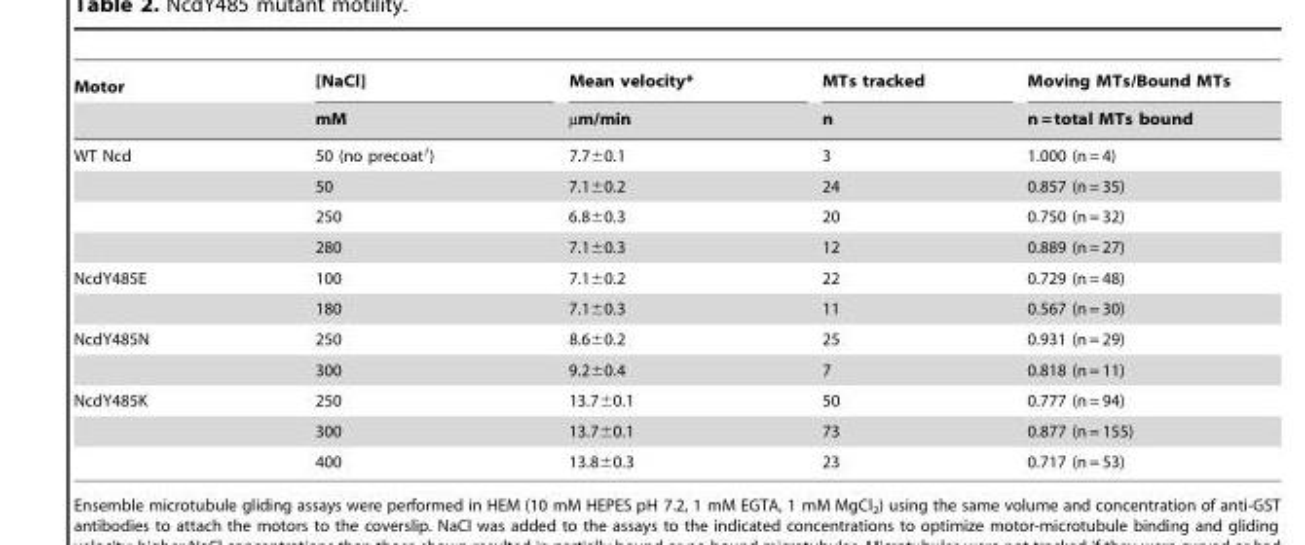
<table><thead><tr><td rowspan="2">Motor</td><td rowspan="2">[NaCl] mM</td><td rowspan="2">Mean velocity* µm/min</td><td rowspan="2">MTs tracked n</td><td rowspan="2">Moving MTs/Bound MTs n = total MTs bound</td></tr><tr></tr></thead><tbody><tr><td rowspan="4">WT Ncd</td><td>50 (no precoate)</td><td>7.7±0.1</td><td>3</td><td>1.000 (n = 4)</td></tr><tr><td>50</td><td>7.1±0.2</td><td>24</td><td>0.857 (n = 35)</td></tr><tr><td>250</td><td>6.8±0.3</td><td>20</td><td>0.750 (n = 32)</td></tr><tr><td>280</td><td>7.1±0.3</td><td>12</td><td>0.889 (n = 27)</td></tr><tr><td rowspan="2">NcdY485E</td><td>100</td><td>7.1±0.2</td><td>22</td><td>0.729 (n = 48)</td></tr><tr><td>180</td><td>7.1±0.3</td><td>11</td><td>0.567 (n = 30)</td></tr><tr><td rowspan="2">NcdY485N</td><td>250</td><td>8.6±0.2</td><td>25</td><td>0.931 (n = 29)</td></tr><tr><td>300</td><td>9.2±0.4</td><td>7</td><td>0.818 (n = 11)</td></tr><tr><td rowspan="3">NcdY485K</td><td>250</td><td>13.7±0.1</td><td>50</td><td>0.777 (n = 94)</td></tr><tr><td>300</td><td>13.7±0.1</td><td>73</td><td>0.877 (n = 155)</td></tr><tr><td>400</td><td>13.8±0.3</td><td>23</td><td>0.717 (n = 53)</td></tr></tbody></table>